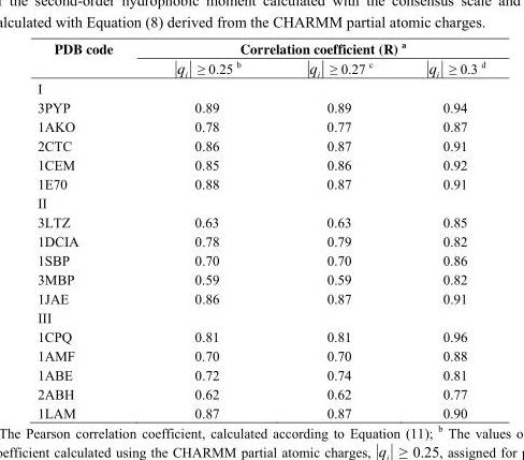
<table><thead><tr><td rowspan="2">PDB code</td><td colspan="3">Correlation coefficient (R) a</td></tr><tr><td>iq ≥ 0.25 b</td><td>iq ≥ 0.27 c</td><td>iq ≥ 0.3 d</td></tr></thead><tbody><tr><td colspan="4">I</td></tr><tr><td>3PYP</td><td>0.89</td><td>0.89</td><td>0.94</td></tr><tr><td>1AKO</td><td>0.78</td><td>0.77</td><td>0.87</td></tr><tr><td>2CTC</td><td>0.86</td><td>0.87</td><td>0.91</td></tr><tr><td>1CEM</td><td>0.85</td><td>0.86</td><td>0.92</td></tr><tr><td>1E70</td><td>0.88</td><td>0.87</td><td>0.91</td></tr><tr><td colspan="4">II</td></tr><tr><td>3LTZ</td><td>0.63</td><td>0.63</td><td>0.85</td></tr><tr><td>1DCIA</td><td>0.78</td><td>0.79</td><td>0.82</td></tr><tr><td>1SBP</td><td>0.70</td><td>0.70</td><td>0.86</td></tr><tr><td>3MBP</td><td>0.59</td><td>0.59</td><td>0.82</td></tr><tr><td>1JAE</td><td>0.86</td><td>0.87</td><td>0.91</td></tr><tr><td colspan="4">III</td></tr><tr><td>1CPQ</td><td>0.81</td><td>0.81</td><td>0.96</td></tr><tr><td>1AMF</td><td>0.70</td><td>0.70</td><td>0.88</td></tr><tr><td>1ABE</td><td>0.72</td><td>0.74</td><td>0.81</td></tr><tr><td>2ABH</td><td>0.62</td><td>0.62</td><td>0.77</td></tr><tr><td>1LAM</td><td>0.87</td><td>0.87</td><td>0.90</td></tr></tbody></table>